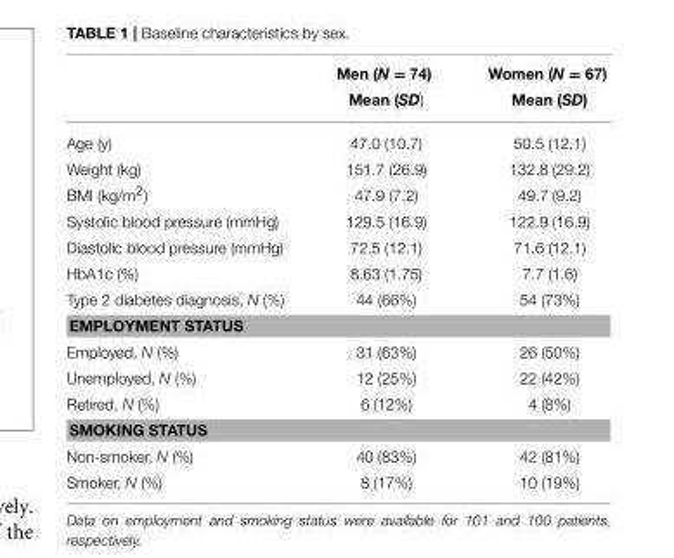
<table><thead><tr><td rowspan="2"></td><td rowspan="2">Men (N = 74) Mean (SD)</td><td rowspan="2">Women (N = 67) Mean (SD)</td></tr><tr></tr></thead><tbody><tr><td>Age (y)</td><td>47.0 (10.7)</td><td>50.5 (12.1)</td></tr><tr><td>Weight (kg)</td><td>151.7 (26.9)</td><td>132.8 (29.2)</td></tr><tr><td>BMI (kg/m<sup>2</sup>)</td><td>47.9 (7.2)</td><td>49.7 (9.2)</td></tr><tr><td>Systolic blood pressure (mmHg)</td><td>129.5 (16.9)</td><td>122.9 (16.9)</td></tr><tr><td>Diastolic blood pressure (mmHg)</td><td>72.5 (12.1)</td><td>71.6 (12.1)</td></tr><tr><td>HbA1c (%)</td><td>8.63 (1.75)</td><td>7.7 (1.6)</td></tr><tr><td>Type 2 diabetes diagnosis, N (%)</td><td>44 (66%)</td><td>54 (73%)</td></tr><tr><td colspan="3">EMPLOYMENT STATUS</td></tr><tr><td>Employed, N (%)</td><td>31 (63%)</td><td>26 (50%)</td></tr><tr><td>Unemployed, N (%)</td><td>12 (25%)</td><td>22 (42%)</td></tr><tr><td>Retired, N (%)</td><td>6 (12%)</td><td>4 (8%)</td></tr><tr><td colspan="3">SMOKING STATUS</td></tr><tr><td>Non-smoker, N (%)</td><td>40 (83%)</td><td>42 (81%)</td></tr><tr><td>Smoker, N (%)</td><td>8 (17%)</td><td>10 (19%)</td></tr></tbody></table>